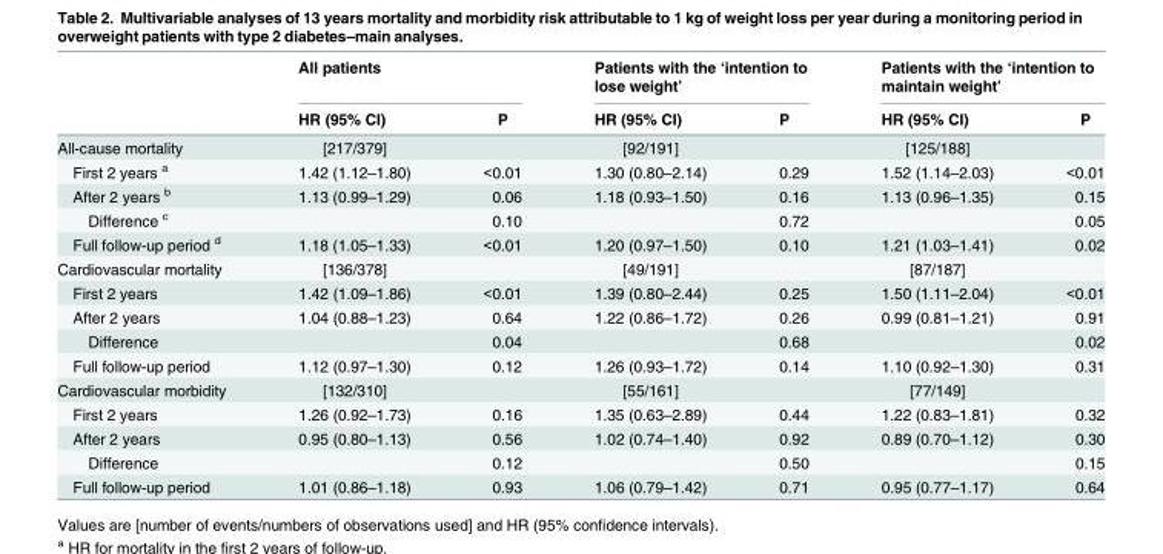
<table><thead><tr><td rowspan="2"></td><td colspan="2">All patients</td><td colspan="2">Patients with the ‘intention to lose weight’</td><td colspan="2">Patients with the ‘intention to maintain weight’</td></tr><tr><td>HR (95% CI)</td><td>P</td><td>HR (95% CI)</td><td>P</td><td>HR (95% CI)</td><td>P</td></tr></thead><tbody><tr><td>All-cause mortality</td><td>[217/379]</td><td></td><td>[92/191]</td><td></td><td>[125/188]</td><td></td></tr><tr><td>First 2 years <sup>a</sup></td><td>1.42 (1.12–1.80)</td><td>&lt;0.01</td><td>1.30 (0.80–2.14)</td><td>0.29</td><td>1.52 (1.14–2.03)</td><td>&lt;0.01</td></tr><tr><td>After 2 years <sup>b</sup></td><td>1.13 (0.99–1.29)</td><td>0.06</td><td>1.18 (0.93–1.50)</td><td>0.16</td><td>1.13 (0.96–1.35)</td><td>0.15</td></tr><tr><td>Difference <sup>c</sup></td><td></td><td>0.10</td><td></td><td>0.72</td><td></td><td>0.05</td></tr><tr><td>Full follow-up period <sup>d</sup></td><td>1.18 (1.05–1.33)</td><td>&lt;0.01</td><td>1.20 (0.97–1.50)</td><td>0.10</td><td>1.21 (1.03–1.41)</td><td>0.02</td></tr><tr><td>Cardiovascular mortality</td><td>[136/378]</td><td></td><td>[49/191]</td><td></td><td>[87/187]</td><td></td></tr><tr><td>First 2 years</td><td>1.42 (1.09–1.86)</td><td>&lt;0.01</td><td>1.39 (0.80–2.44)</td><td>0.25</td><td>1.50 (1.11–2.04)</td><td>&lt;0.01</td></tr><tr><td>After 2 years</td><td>1.04 (0.88–1.23)</td><td>0.64</td><td>1.22 (0.86–1.72)</td><td>0.26</td><td>0.99 (0.81–1.21)</td><td>0.91</td></tr><tr><td>Difference</td><td></td><td>0.04</td><td></td><td>0.68</td><td></td><td>0.02</td></tr><tr><td>Full follow-up period</td><td>1.12 (0.97–1.30)</td><td>0.12</td><td>1.26 (0.93–1.72)</td><td>0.14</td><td>1.10 (0.92–1.30)</td><td>0.31</td></tr><tr><td>Cardiovascular morbidity</td><td>[132/310]</td><td></td><td>[55/161]</td><td></td><td>[77/149]</td><td></td></tr><tr><td>First 2 years</td><td>1.26 (0.92–1.73)</td><td>0.16</td><td>1.35 (0.63–2.89)</td><td>0.44</td><td>1.22 (0.83–1.81)</td><td>0.32</td></tr><tr><td>After 2 years</td><td>0.95 (0.80–1.13)</td><td>0.56</td><td>1.02 (0.74–1.40)</td><td>0.92</td><td>0.89 (0.70–1.12)</td><td>0.30</td></tr><tr><td>Difference</td><td></td><td>0.12</td><td></td><td>0.50</td><td></td><td>0.15</td></tr><tr><td>Full follow-up period</td><td>1.01 (0.86–1.18)</td><td>0.93</td><td>1.06 (0.79–1.42)</td><td>0.71</td><td>0.95 (0.77–1.17)</td><td>0.64</td></tr></tbody></table>